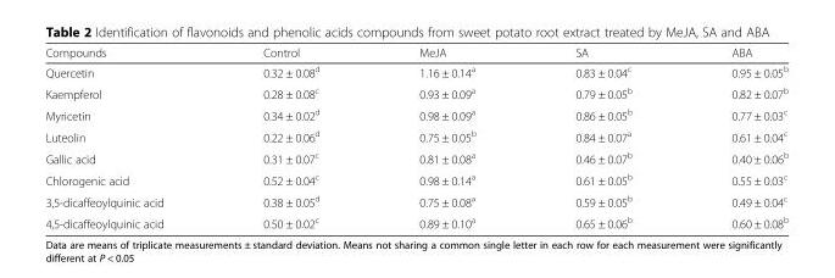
<table><thead><tr><td>Compounds</td><td>Control</td><td>MeJA</td><td>SA</td><td>ABA</td></tr></thead><tbody><tr><td>Quercetin</td><td>0.32 ± 0.08<sup>d</sup></td><td>1.16 ± 0.14<sup>a</sup></td><td>0.83 ± 0.04<sup>c</sup></td><td>0.95 ± 0.05<sup>b</sup></td></tr><tr><td>Kaempferol</td><td>0.28 ± 0.08<sup>c</sup></td><td>0.93 ± 0.09<sup>a</sup></td><td>0.79 ± 0.05<sup>b</sup></td><td>0.82 ± 0.07<sup>b</sup></td></tr><tr><td>Myricetin</td><td>0.34 ± 0.02<sup>d</sup></td><td>0.98 ± 0.09<sup>a</sup></td><td>0.86 ± 0.05<sup>b</sup></td><td>0.77 ± 0.03<sup>c</sup></td></tr><tr><td>Luteolin</td><td>0.22 ± 0.06<sup>d</sup></td><td>0.75 ± 0.05<sup>b</sup></td><td>0.84 ± 0.07<sup>a</sup></td><td>0.61 ± 0.04<sup>c</sup></td></tr><tr><td>Gallic acid</td><td>0.31 ± 0.07<sup>c</sup></td><td>0.81 ± 0.08<sup>a</sup></td><td>0.46 ± 0.07<sup>b</sup></td><td>0.40 ± 0.06<sup>b</sup></td></tr><tr><td>Chlorogenic acid</td><td>0.52 ± 0.04<sup>c</sup></td><td>0.98 ± 0.14<sup>a</sup></td><td>0.61 ± 0.05<sup>b</sup></td><td>0.55 ± 0.03<sup>c</sup></td></tr><tr><td>3,5-dicaffeoylquinic acid</td><td>0.38 ± 0.05<sup>d</sup></td><td>0.75 ± 0.08<sup>a</sup></td><td>0.59 ± 0.05<sup>b</sup></td><td>0.49 ± 0.04<sup>c</sup></td></tr><tr><td>4,5-dicaffeoylquinic acid</td><td>0.50 ± 0.02<sup>c</sup></td><td>0.89 ± 0.10<sup>a</sup></td><td>0.65 ± 0.06<sup>b</sup></td><td>0.60 ± 0.08<sup>b</sup></td></tr></tbody></table>